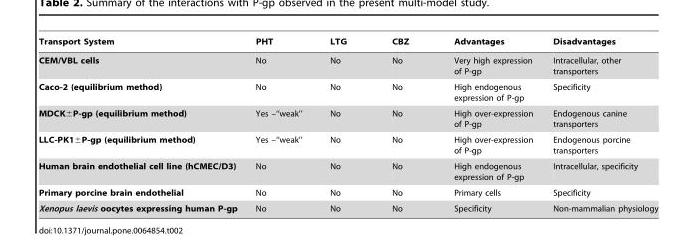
<table><thead><tr><td>Transport System</td><td>PHT</td><td>LTG</td><td>CBZ</td><td>Advantages</td><td>Disadvantages</td></tr></thead><tbody><tr><td>CEM/VBL cells</td><td>No</td><td>No</td><td>No</td><td>Very high expression of P-gp</td><td>Intracellular, other transporters</td></tr><tr><td>Caco-2 (equilibrium method)</td><td>No</td><td>No</td><td>No</td><td>High endogenous expression of P-gp</td><td>Specificity</td></tr><tr><td>MDCK±P-gp (equilibrium method)</td><td>Yes –‘‘weak’’</td><td>No</td><td>No</td><td>High over-expression of P-gp</td><td>Endogenous canine transporters</td></tr><tr><td>LLC-PK1±P-gp (equilibrium method)</td><td>Yes –‘‘weak’’</td><td>No</td><td>No</td><td>High over-expression of P-gp</td><td>Endogenous porcine transporters</td></tr><tr><td>Human brain endothelial cell line (hCMEC/D3)</td><td>No</td><td>No</td><td>No</td><td>High endogenous expression of P-gp</td><td>Intracellular, specificity</td></tr><tr><td>Primary porcine brain endothelial</td><td>No</td><td>No</td><td>No</td><td>Primary cells</td><td>Specificity</td></tr><tr><td>Xenopus laevis oocytes expressing human P-gp</td><td>No</td><td>No</td><td>No</td><td>Specificity</td><td>Non-mammalian physiology</td></tr></tbody></table>